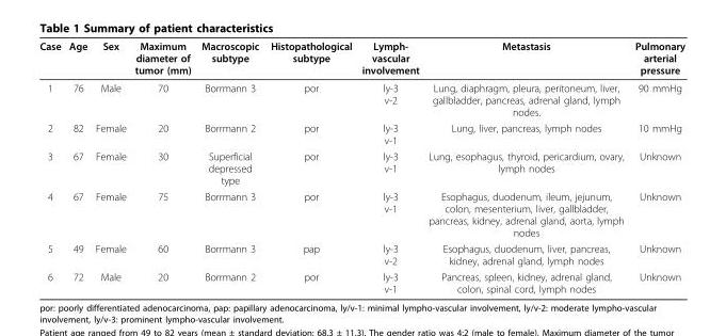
<table><thead><tr><td>Case</td><td>Age</td><td>Sex</td><td>Maximum diameter of tumor (mm)</td><td>Macroscopic subtype</td><td>Histopathological subtype</td><td>Lymph- vascular involvement</td><td>Metastasis</td><td>Pulmonary arterial pressure</td></tr></thead><tbody><tr><td>1</td><td>76</td><td>Male</td><td>70</td><td>Borrmann 3</td><td>por</td><td>ly-3 v-2</td><td>Lung, diaphragm, pleura, peritoneum, liver, gallbladder, pancreas, adrenal gland, lymph nodes.</td><td>90 mmHg</td></tr><tr><td>2</td><td>82</td><td>Female</td><td>20</td><td>Borrmann 2</td><td>por</td><td>ly-3 v-1</td><td>Lung, liver, pancreas, lymph nodes</td><td>10 mmHg</td></tr><tr><td>3</td><td>67</td><td>Female</td><td>30</td><td>Superficial depressed type</td><td>por</td><td>ly-3 v-1</td><td>Lung, esophagus, thyroid, pericardium, ovary, lymph nodes</td><td>Unknown</td></tr><tr><td>4</td><td>67</td><td>Female</td><td>75</td><td>Borrmann 3</td><td>por</td><td>ly-3 v-1</td><td>Esophagus, duodenum, ileum, jejunum, colon, mesenterium, liver, gallbladder, pancreas, kidney, adrenal gland, aorta, lymph nodes</td><td>Unknown</td></tr><tr><td>5</td><td>49</td><td>Female</td><td>60</td><td>Borrmann 3</td><td>pap</td><td>ly-3 v-2</td><td>Esophagus, duodenum, liver, pancreas, kidney, adrenal gland, lymph nodes</td><td>Unknown</td></tr><tr><td>6</td><td>72</td><td>Male</td><td>20</td><td>Borrmann 2</td><td>por</td><td>ly-3 v-1</td><td>Pancreas, spleen, kidney, adrenal gland, colon, spinal cord, lymph nodes</td><td>Unknown</td></tr></tbody></table>